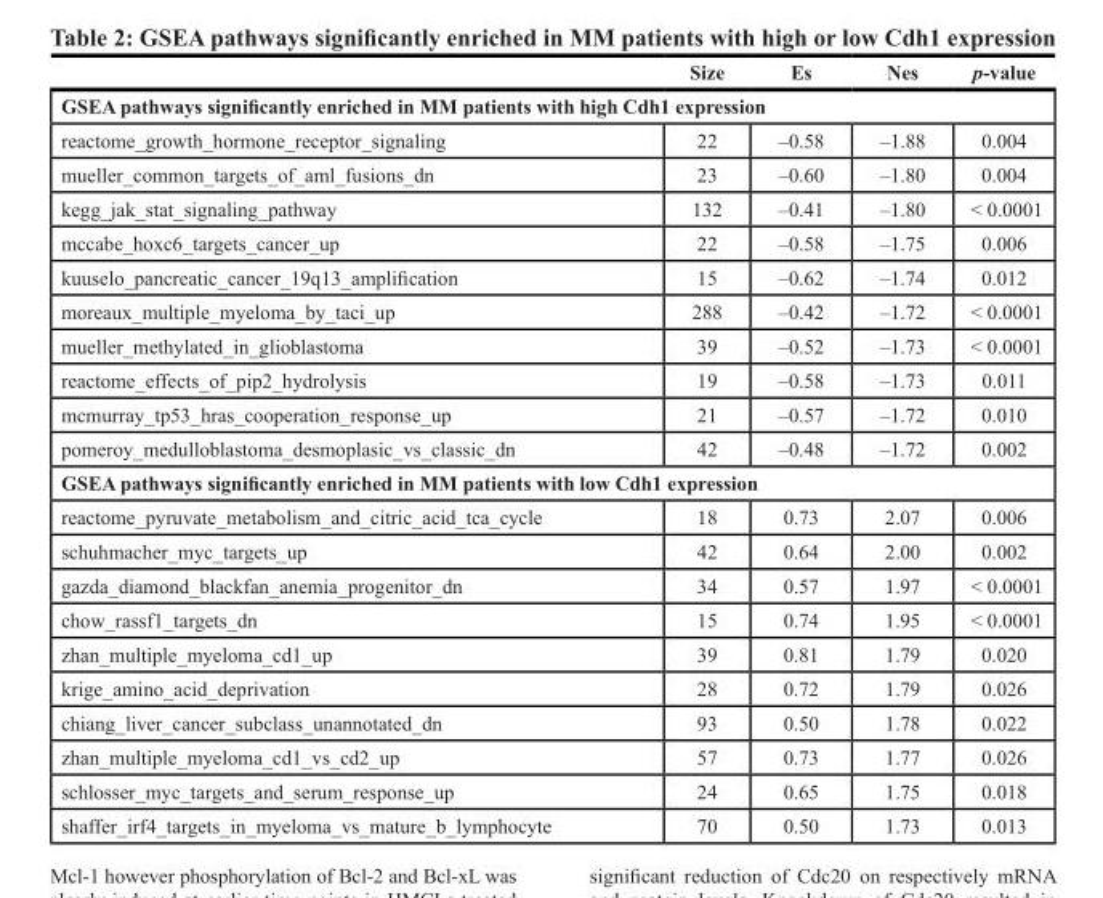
<table><thead><tr><td></td><td>Size</td><td>Es</td><td>Nes</td><td>p-value</td></tr></thead><tbody><tr><td colspan="5">GSEA pathways significantly enriched in MM patients with high Cdh1 expression</td></tr><tr><td>reactome_growth_hormone_receptor_signaling</td><td>22</td><td>–0.58</td><td>–1.88</td><td>0.004</td></tr><tr><td>mueller_common_targets_of_aml_fusions_dn</td><td>23</td><td>–0.60</td><td>–1.80</td><td>0.004</td></tr><tr><td>kegg_jak_stat_signaling_pathway</td><td>132</td><td>–0.41</td><td>–1.80</td><td>&lt; 0.0001</td></tr><tr><td>mccabe_hoxc6_targets_cancer_up</td><td>22</td><td>–0.58</td><td>–1.75</td><td>0.006</td></tr><tr><td>kuuselo_pancreatic_cancer_19q13_amplification</td><td>15</td><td>–0.62</td><td>–1.74</td><td>0.012</td></tr><tr><td>moreaux_multiple_myeloma_by_taci_up</td><td>288</td><td>–0.42</td><td>–1.72</td><td>&lt; 0.0001</td></tr><tr><td>mueller_methylated_in_glioblastoma</td><td>39</td><td>–0.52</td><td>–1.73</td><td>&lt; 0.0001</td></tr><tr><td>reactome_effects_of_pip2_hydrolysis</td><td>19</td><td>–0.58</td><td>–1.73</td><td>0.011</td></tr><tr><td>mcmurray_tp53_hras_cooperation_response_up</td><td>21</td><td>–0.57</td><td>–1.72</td><td>0.010</td></tr><tr><td>pomeroy_medulloblastoma_desmoplasic_vs_classic_dn</td><td>42</td><td>–0.48</td><td>–1.72</td><td>0.002</td></tr><tr><td colspan="5">GSEA pathways significantly enriched in MM patients with low Cdh1 expression</td></tr><tr><td>reactome_pyruvate_metabolism_and_citric_acid_tca_cycle</td><td>18</td><td>0.73</td><td>2.07</td><td>0.006</td></tr><tr><td>schuhmacher_myc_targets_up</td><td>42</td><td>0.64</td><td>2.00</td><td>0.002</td></tr><tr><td>gazda_diamond_blackfan_anemia_progenitor_dn</td><td>34</td><td>0.57</td><td>1.97</td><td>&lt; 0.0001</td></tr><tr><td>chow_rassf1_targets_dn</td><td>15</td><td>0.74</td><td>1.95</td><td>&lt; 0.0001</td></tr><tr><td>zhan_multiple_myeloma_cd1_up</td><td>39</td><td>0.81</td><td>1.79</td><td>0.020</td></tr><tr><td>krige_amino_acid_deprivation</td><td>28</td><td>0.72</td><td>1.79</td><td>0.026</td></tr><tr><td>chiang_liver_cancer_subclass_unannotated_dn</td><td>93</td><td>0.50</td><td>1.78</td><td>0.022</td></tr><tr><td>zhan_multiple_myeloma_cd1_vs_cd2_up</td><td>57</td><td>0.73</td><td>1.77</td><td>0.026</td></tr><tr><td>schlosser_myc_targets_and_serum_response_up</td><td>24</td><td>0.65</td><td>1.75</td><td>0.018</td></tr><tr><td>shaffer_irf4_targets_in_myeloma_vs_mature_b_lymphocyte</td><td>70</td><td>0.50</td><td>1.73</td><td>0.013</td></tr></tbody></table>